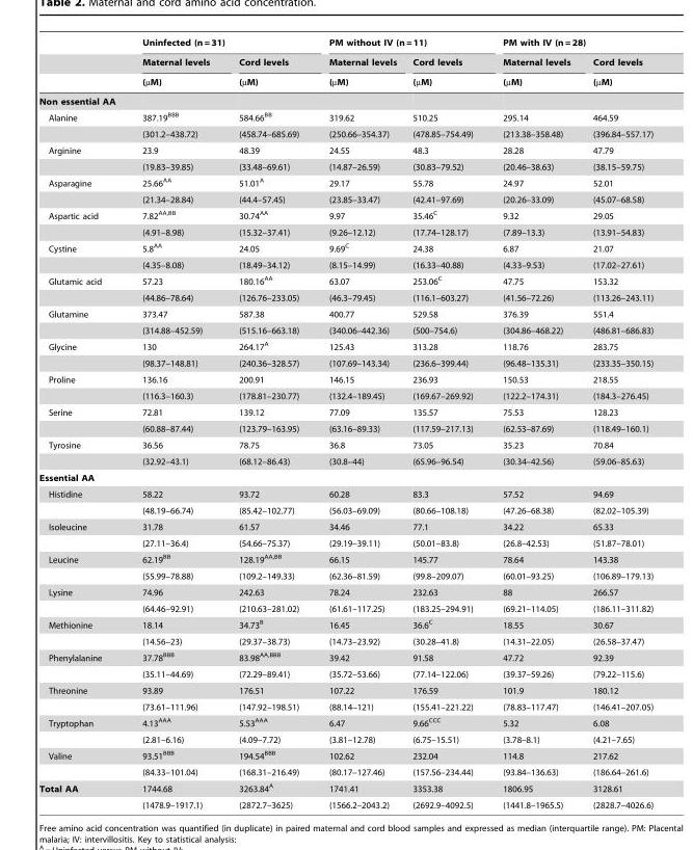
<table><thead><tr><td rowspan="3"></td><td colspan="2">Uninfected (n = 31)</td><td colspan="2">PM without IV (n = 11)</td><td colspan="2">PM with IV (n = 28)</td></tr><tr><td rowspan="2">Maternal levels (µM)</td><td rowspan="2">Cord levels (µM)</td><td rowspan="2">Maternal levels (µM)</td><td rowspan="2">Cord levels (µM)</td><td rowspan="2">Maternal levels (µM)</td><td rowspan="2">Cord levels (µM)</td></tr><tr></tr></thead><tbody><tr><td colspan="7">Non essential AA</td></tr><tr><td rowspan="2">Alanine</td><td>387.19<sup>BBB</sup></td><td>584.66<sup>BB</sup></td><td>319.62</td><td>510.25</td><td>295.14</td><td>464.59</td></tr><tr><td>(301.2–438.72)</td><td>(458.74–685.69)</td><td>(250.66–354.37)</td><td>(478.85–754.49)</td><td>(213.38–358.48)</td><td>(396.84–557.17)</td></tr><tr><td rowspan="2">Arginine</td><td>23.9</td><td>48.39</td><td>24.55</td><td>48.3</td><td>28.28</td><td>47.79</td></tr><tr><td>(19.83–39.85)</td><td>(33.48–69.61)</td><td>(14.87–26.59)</td><td>(30.83–79.52)</td><td>(20.46–38.63)</td><td>(38.15–59.75)</td></tr><tr><td rowspan="2">Asparagine</td><td>25.66<sup>AA</sup></td><td>51.01<sup>A</sup></td><td>29.17</td><td>55.78</td><td>24.97</td><td>52.01</td></tr><tr><td>(21.34–28.84)</td><td>(44.4–57.45)</td><td>(23.85–33.47)</td><td>(42.41–97.69)</td><td>(20.26–33.09)</td><td>(45.07–68.58)</td></tr><tr><td rowspan="2">Aspartic acid</td><td>7.82<sup>AA,BB</sup></td><td>30.74<sup>AA</sup></td><td>9.97</td><td>35.46<sup>C</sup></td><td>9.32</td><td>29.05</td></tr><tr><td>(4.91–8.98)</td><td>(15.32–37.41)</td><td>(9.26–12.12)</td><td>(17.74–128.17)</td><td>(7.89–13.3)</td><td>(13.91–54.83)</td></tr><tr><td rowspan="2">Cystine</td><td>5.8<sup>AA</sup></td><td>24.05</td><td>9.69<sup>C</sup></td><td>24.38</td><td>6.87</td><td>21.07</td></tr><tr><td>(4.35–8.08)</td><td>(18.49–34.12)</td><td>(8.15–14.99)</td><td>(16.33–40.88)</td><td>(4.33–9.53)</td><td>(17.02–27.61)</td></tr><tr><td rowspan="2">Glutamic acid</td><td>57.23</td><td>180.16<sup>AA</sup></td><td>63.07</td><td>253.06<sup>C</sup></td><td>47.75</td><td>153.32</td></tr><tr><td>(44.86–78.64)</td><td>(126.76–233.05)</td><td>(46.3–79.45)</td><td>(116.1–603.27)</td><td>(41.56–72.26)</td><td>(113.26–243.11)</td></tr><tr><td rowspan="2">Glutamine</td><td>373.47</td><td>587.38</td><td>400.77</td><td>529.58</td><td>376.39</td><td>551.4</td></tr><tr><td>(314.88–452.59)</td><td>(515.16–663.18)</td><td>(340.06–442.36)</td><td>(500–754.6)</td><td>(304.86–468.22)</td><td>(486.81–686.83)</td></tr><tr><td rowspan="2">Glycine</td><td>130</td><td>264.17<sup>A</sup></td><td>125.43</td><td>313.28</td><td>118.76</td><td>283.75</td></tr><tr><td>(98.37–148.81)</td><td>(240.36–328.57)</td><td>(107.69–143.34)</td><td>(236.6–399.44)</td><td>(96.48–135.31)</td><td>(233.35–350.15)</td></tr><tr><td rowspan="2">Proline</td><td>136.16</td><td>200.91</td><td>146.15</td><td>236.93</td><td>150.53</td><td>218.55</td></tr><tr><td>(116.3–160.3)</td><td>(178.81–230.77)</td><td>(132.4–189.45)</td><td>(169.67–269.92)</td><td>(122.2–174.31)</td><td>(184.3–276.45)</td></tr><tr><td rowspan="2">Serine</td><td>72.81</td><td>139.12</td><td>77.09</td><td>135.57</td><td>75.53</td><td>128.23</td></tr><tr><td>(60.88–87.44)</td><td>(123.79–163.95)</td><td>(63.16–89.33)</td><td>(117.59–217.13)</td><td>(62.53–87.69)</td><td>(118.49–160.1)</td></tr><tr><td rowspan="2">Tyrosine</td><td>36.56</td><td>78.75</td><td>36.8</td><td>73.05</td><td>35.23</td><td>70.84</td></tr><tr><td>(32.92–43.1)</td><td>(68.12–86.43)</td><td>(30.8–44)</td><td>(65.96–96.54)</td><td>(30.34–42.56)</td><td>(59.06–85.63)</td></tr><tr><td colspan="7">Essential AA</td></tr><tr><td rowspan="2">Histidine</td><td>58.22</td><td>93.72</td><td>60.28</td><td>83.3</td><td>57.52</td><td>94.69</td></tr><tr><td>(48.19–66.74)</td><td>(85.42–102.77)</td><td>(56.03–69.09)</td><td>(80.66–108.18)</td><td>(47.26–68.38)</td><td>(82.02–105.39)</td></tr><tr><td rowspan="2">Isoleucine</td><td>31.78</td><td>61.57</td><td>34.46</td><td>77.1</td><td>34.22</td><td>65.33</td></tr><tr><td>(27.11–36.4)</td><td>(54.66–75.37)</td><td>(29.19–39.11)</td><td>(50.01–83.8)</td><td>(26.8–42.53)</td><td>(51.87–78.01)</td></tr><tr><td rowspan="2">Leucine</td><td>62.19<sup>BB</sup></td><td>128.19<sup>AA,BB</sup></td><td>66.15</td><td>145.77</td><td>78.64</td><td>143.38</td></tr><tr><td>(55.99–78.88)</td><td>(109.2–149.33)</td><td>(62.36–81.59)</td><td>(99.8–209.07)</td><td>(60.01–93.25)</td><td>(106.89–179.13)</td></tr><tr><td rowspan="2">Lysine</td><td>74.96</td><td>242.63</td><td>78.24</td><td>232.63</td><td>88</td><td>266.57</td></tr><tr><td>(64.46–92.91)</td><td>(210.63–281.02)</td><td>(61.61–117.25)</td><td>(183.25–294.91)</td><td>(69.21–114.05)</td><td>(186.11–311.82)</td></tr><tr><td rowspan="2">Methionine</td><td>18.14</td><td>34.73<sup>B</sup></td><td>16.45</td><td>36.6<sup>C</sup></td><td>18.55</td><td>30.67</td></tr><tr><td>(14.56–23)</td><td>(29.37–38.73)</td><td>(14.73–23.92)</td><td>(30.28–41.8)</td><td>(14.31–22.05)</td><td>(26.58–37.47)</td></tr><tr><td rowspan="2">Phenylalanine</td><td>37.78<sup>BBB</sup></td><td>83.98<sup>AA,BBB</sup></td><td>39.42</td><td>91.58</td><td>47.72</td><td>92.39</td></tr><tr><td>(35.11–44.69)</td><td>(72.29–89.41)</td><td>(35.72–53.66)</td><td>(77.14–122.06)</td><td>(39.37–59.26)</td><td>(79.22–115.6)</td></tr><tr><td rowspan="2">Threonine</td><td>93.89</td><td>176.51</td><td>107.22</td><td>176.59</td><td>101.9</td><td>180.12</td></tr><tr><td>(73.61–111.96)</td><td>(147.92–198.51)</td><td>(88.14–121)</td><td>(155.41–221.22)</td><td>(78.83–117.47)</td><td>(146.41–207.05)</td></tr><tr><td rowspan="2">Tryptophan</td><td>4.13<sup>AAA</sup></td><td>5.53<sup>AAA</sup></td><td>6.47</td><td>9.66<sup>CCC</sup></td><td>5.32</td><td>6.08</td></tr><tr><td>(2.81–6.16)</td><td>(4.09–7.72)</td><td>(3.81–12.78)</td><td>(6.75–15.51)</td><td>(3.78–8.1)</td><td>(4.21–7.65)</td></tr><tr><td rowspan="2">Valine</td><td>93.51<sup>BBB</sup></td><td>194.54<sup>BBB</sup></td><td>102.62</td><td>232.04</td><td>114.8</td><td>217.62</td></tr><tr><td>(84.33–101.04)</td><td>(168.31–216.49)</td><td>(80.17–127.46)</td><td>(157.56–234.44)</td><td>(93.84–136.63)</td><td>(186.64–261.6)</td></tr><tr><td rowspan="2">Total AA</td><td>1744.68</td><td>3263.84<sup>A</sup></td><td>1741.41</td><td>3353.38</td><td>1806.95</td><td>3128.61</td></tr><tr><td>(1478.9–1917.1)</td><td>(2872.7–3625)</td><td>(1566.2–2043.2)</td><td>(2692.9–4092.5)</td><td>(1441.8–1965.5)</td><td>(2828.7–4026.6)</td></tr></tbody></table>